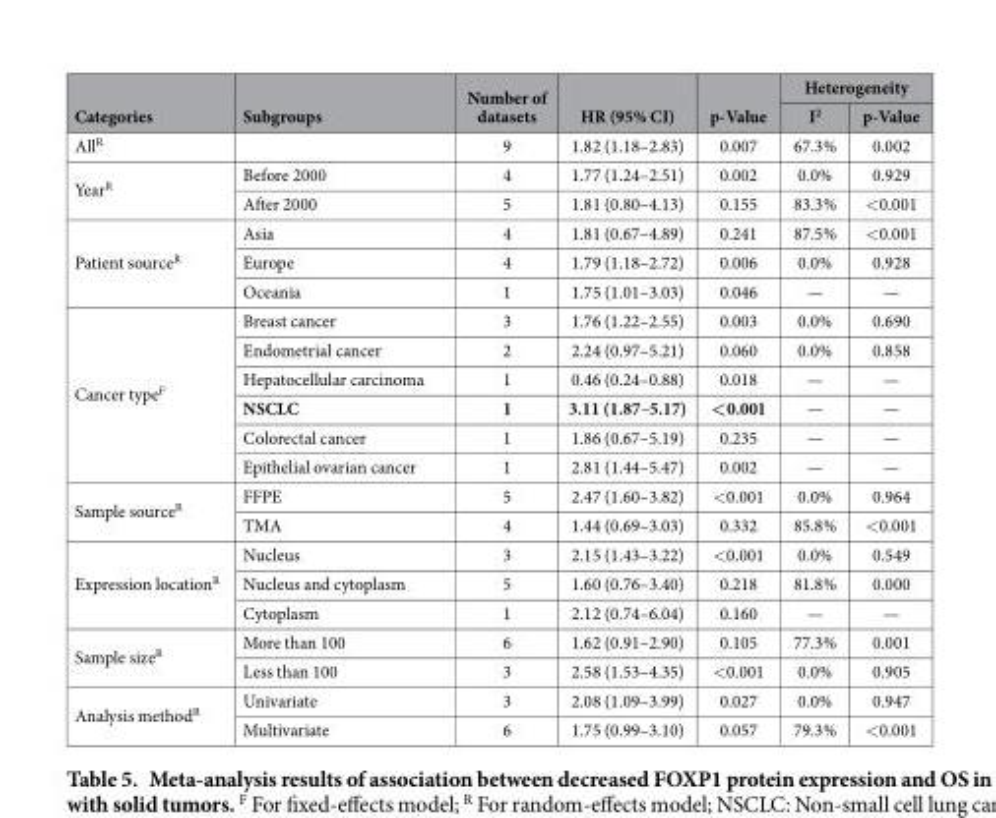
<table><thead><tr><td rowspan="2">Categories</td><td rowspan="2">Subgroups</td><td rowspan="2">Number of datasets</td><td rowspan="2">HR (95% CI)</td><td rowspan="2">p-Value</td><td colspan="2">Heterogeneity</td></tr><tr><td>I<sup>2</sup></td><td>p-Value</td></tr></thead><tbody><tr><td>All<sup>R</sup></td><td></td><td>9</td><td>1.82 (1.18–2.83)</td><td>0.007</td><td>67.3%</td><td>0.002</td></tr><tr><td rowspan="2">Year<sup>R</sup></td><td>Before 2000</td><td>4</td><td>1.77 (1.24–2.51)</td><td>0.002</td><td>0.0%</td><td>0.929</td></tr><tr><td>After 2000</td><td>5</td><td>1.81 (0.80–4.13)</td><td>0.155</td><td>83.3%</td><td>&lt; 0.001</td></tr><tr><td rowspan="3">Patient source<sup>R</sup></td><td>Asia</td><td>4</td><td>1.81 (0.67–4.89)</td><td>0.241</td><td>87.5%</td><td>&lt; 0.001</td></tr><tr><td>Europe</td><td>4</td><td>1.79 (1.18–2.72)</td><td>0.006</td><td>0.0%</td><td>0.928</td></tr><tr><td>Oceania</td><td>1</td><td>1.75 (1.01–3.03)</td><td>0.046</td><td>—</td><td>—</td></tr><tr><td rowspan="6">Cancer type<sup>F</sup></td><td>Breast cancer</td><td>3</td><td>1.76 (1.22–2.55)</td><td>0.003</td><td>0.0%</td><td>0.690</td></tr><tr><td>Endometrial cancer</td><td>2</td><td>2.24 (0.97–5.21)</td><td>0.060</td><td>0.0%</td><td>0.858</td></tr><tr><td>Hepatocellular carcinoma</td><td>1</td><td>0.46 (0.24–0.88)</td><td>0.018</td><td>—</td><td>—</td></tr><tr><td>NSCLC</td><td>1</td><td>3.11 (1.87–5.17)</td><td>&lt;0.001</td><td>—</td><td>—</td></tr><tr><td>Colorectal cancer</td><td>1</td><td>1.86 (0.67–5.19)</td><td>0.235</td><td>—</td><td>—</td></tr><tr><td>Epithelial ovarian cancer</td><td>1</td><td>2.81 (1.44–5.47)</td><td>0.002</td><td>—</td><td>—</td></tr><tr><td rowspan="2">Sample source<sup>R</sup></td><td>FFPE</td><td>5</td><td>2.47 (1.60–3.82)</td><td>&lt; 0.001</td><td>0.0%</td><td>0.964</td></tr><tr><td>TMA</td><td>4</td><td>1.44 (0.69–3.03)</td><td>0.332</td><td>85.8%</td><td>&lt; 0.001</td></tr><tr><td rowspan="3">Expression location<sup>R</sup></td><td>Nucleus</td><td>3</td><td>2.15 (1.43–3.22)</td><td>&lt; 0.001</td><td>0.0%</td><td>0.549</td></tr><tr><td>Nucleus and cytoplasm</td><td>5</td><td>1.60 (0.76–3.40)</td><td>0.218</td><td>81.8%</td><td>0.000</td></tr><tr><td>Cytoplasm</td><td>1</td><td>2.12 (0.74–6.04)</td><td>0.160</td><td>—</td><td>—</td></tr><tr><td rowspan="2">Sample size<sup>R</sup></td><td>More than 100</td><td>6</td><td>1.62 (0.91–2.90)</td><td>0.105</td><td>77.3%</td><td>0.001</td></tr><tr><td>Less than 100</td><td>3</td><td>2.58 (1.53–4.35)</td><td>&lt; 0.001</td><td>0.0%</td><td>0.905</td></tr><tr><td rowspan="2">Analysis method<sup>R</sup></td><td>Univariate</td><td>3</td><td>2.08 (1.09–3.99)</td><td>0.027</td><td>0.0%</td><td>0.947</td></tr><tr><td>Multivariate</td><td>6</td><td>1.75 (0.99–3.10)</td><td>0.057</td><td>79.3%</td><td>&lt; 0.001</td></tr></tbody></table>